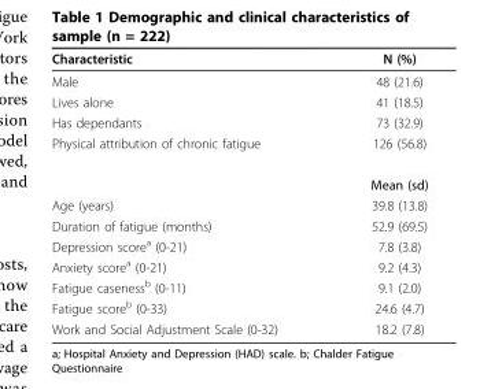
<table><thead><tr><td>Characteristic</td><td>N (%)</td></tr></thead><tbody><tr><td>Male</td><td>48 (21.6)</td></tr><tr><td>Lives alone</td><td>41 (18.5)</td></tr><tr><td>Has dependants</td><td>73 (32.9)</td></tr><tr><td rowspan="2">Physical attribution of chronic fatigue</td><td>126 (56.8)</td></tr><tr><td>Mean (sd)</td></tr><tr><td>Age (years)</td><td>39.8 (13.8)</td></tr><tr><td>Duration of fatigue (months)</td><td>52.9 (69.5)</td></tr><tr><td>Depression score<sup>a</sup> (0-21)</td><td>7.8 (3.8)</td></tr><tr><td>Anxiety score<sup>a</sup> (0-21)</td><td>9.2 (4.3)</td></tr><tr><td>Fatigue caseness<sup>b</sup> (0-11)</td><td>9.1 (2.0)</td></tr><tr><td>Fatigue score<sup>b</sup> (0-33)</td><td>24.6 (4.7)</td></tr><tr><td>Work and Social Adjustment Scale (0-32)</td><td>18.2 (7.8)</td></tr></tbody></table>